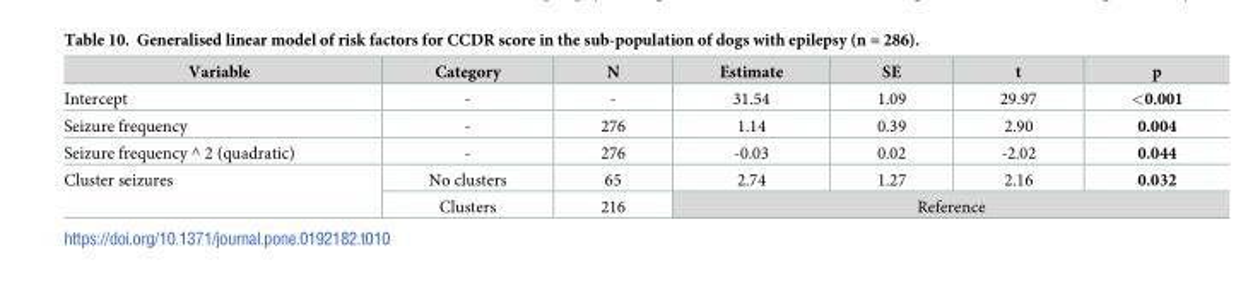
<table><thead><tr><td>Variable</td><td>Category</td><td>N</td><td>Estimate</td><td>SE</td><td>t</td><td>p</td></tr></thead><tbody><tr><td>Intercept</td><td>-</td><td>-</td><td>31.54</td><td>1.09</td><td>29.97</td><td>&lt;0.001</td></tr><tr><td>Seizure frequency</td><td>-</td><td>276</td><td>1.14</td><td>0.39</td><td>2.90</td><td>0.004</td></tr><tr><td>Seizure frequency ^ 2 (quadratic)</td><td>-</td><td>276</td><td>-0.03</td><td>0.02</td><td>-2.02</td><td>0.044</td></tr><tr><td rowspan="2">Cluster seizures</td><td>No clusters</td><td>65</td><td>2.74</td><td>1.27</td><td>2.16</td><td>0.032</td></tr><tr><td>Clusters</td><td>216</td><td colspan="4">Reference</td></tr></tbody></table>